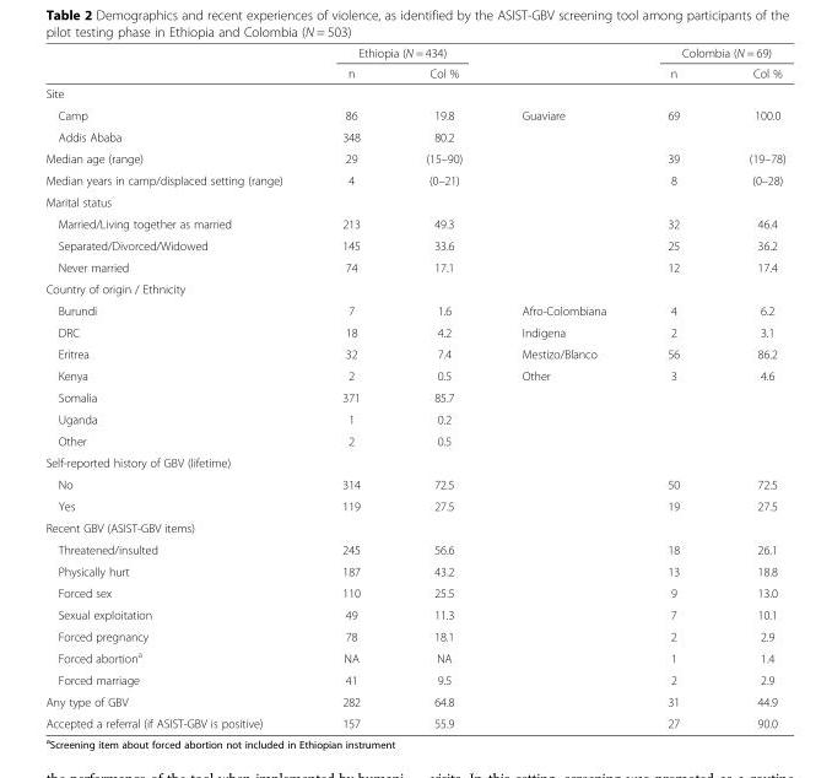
<table><thead><tr><td rowspan="2"></td><td colspan="2">Ethiopia (N = 434)</td><td rowspan="2"></td><td colspan="2">Colombia (N = 69)</td></tr><tr><td>n</td><td>Col %</td><td>n</td><td>Col %</td></tr></thead><tbody><tr><td colspan="6">Site</td></tr><tr><td>Camp</td><td>86</td><td>19.8</td><td>Guaviare</td><td>69</td><td>100.0</td></tr><tr><td>Addis Ababa</td><td>348</td><td>80.2</td><td></td><td></td><td></td></tr><tr><td>Median age (range)</td><td>29</td><td>(15–90)</td><td></td><td>39</td><td>(19–78)</td></tr><tr><td>Median years in camp/displaced setting (range)</td><td>4</td><td>(0–21)</td><td></td><td>8</td><td>(0–28)</td></tr><tr><td colspan="6">Marital status</td></tr><tr><td>Married/Living together as married</td><td>213</td><td>49.3</td><td></td><td>32</td><td>46.4</td></tr><tr><td>Separated/Divorced/Widowed</td><td>145</td><td>33.6</td><td></td><td>25</td><td>36.2</td></tr><tr><td>Never married</td><td>74</td><td>17.1</td><td></td><td>12</td><td>17.4</td></tr><tr><td colspan="6">Country of origin / Ethnicity</td></tr><tr><td>Burundi</td><td>7</td><td>1.6</td><td>Afro-Colombiana</td><td>4</td><td>6.2</td></tr><tr><td>DRC</td><td>18</td><td>4.2</td><td>Indigena</td><td>2</td><td>3.1</td></tr><tr><td>Eritrea</td><td>32</td><td>7.4</td><td>Mestizo/Blanco</td><td>56</td><td>86.2</td></tr><tr><td>Kenya</td><td>2</td><td>0.5</td><td>Other</td><td>3</td><td>4.6</td></tr><tr><td>Somalia</td><td>371</td><td>85.7</td><td></td><td></td><td></td></tr><tr><td>Uganda</td><td>1</td><td>0.2</td><td></td><td></td><td></td></tr><tr><td>Other</td><td>2</td><td>0.5</td><td></td><td></td><td></td></tr><tr><td colspan="6">Self-reported history of GBV (lifetime)</td></tr><tr><td>No</td><td>314</td><td>72.5</td><td></td><td>50</td><td>72.5</td></tr><tr><td>Yes</td><td>119</td><td>27.5</td><td></td><td>19</td><td>27.5</td></tr><tr><td colspan="6">Recent GBV (ASIST-GBV items)</td></tr><tr><td>Threatened/insulted</td><td>245</td><td>56.6</td><td></td><td>18</td><td>26.1</td></tr><tr><td>Physically hurt</td><td>187</td><td>43.2</td><td></td><td>13</td><td>18.8</td></tr><tr><td>Forced sex</td><td>110</td><td>25.5</td><td></td><td>9</td><td>13.0</td></tr><tr><td>Sexual exploitation</td><td>49</td><td>11.3</td><td></td><td>7</td><td>10.1</td></tr><tr><td>Forced pregnancy</td><td>78</td><td>18.1</td><td></td><td>2</td><td>2.9</td></tr><tr><td>Forced abortion<sup>a</sup></td><td>NA</td><td>NA</td><td></td><td>1</td><td>1.4</td></tr><tr><td>Forced marriage</td><td>41</td><td>9.5</td><td></td><td>2</td><td>2.9</td></tr><tr><td>Any type of GBV</td><td>282</td><td>64.8</td><td></td><td>31</td><td>44.9</td></tr><tr><td>Accepted a referral (if ASIST-GBV is positive)</td><td>157</td><td>55.9</td><td></td><td>27</td><td>90.0</td></tr></tbody></table>